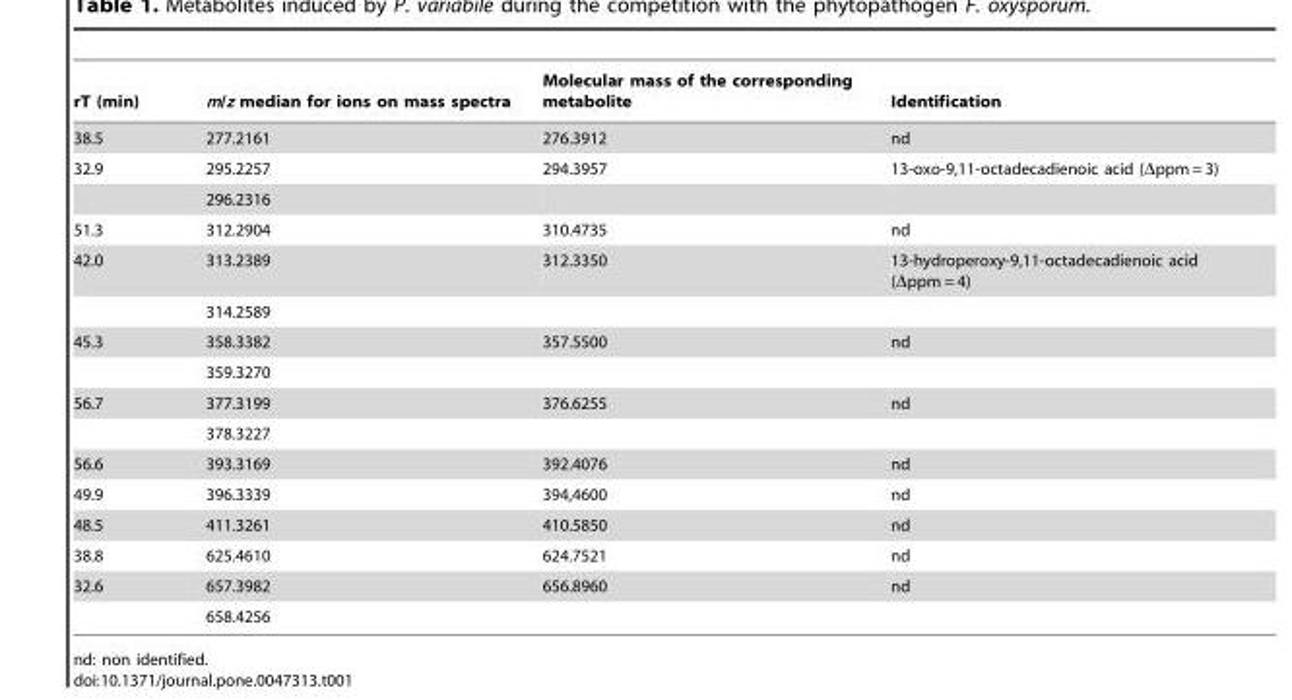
<table><thead><tr><td>rT (min)</td><td>m/z median for ions on mass spectra</td><td>Molecular mass of the corresponding metabolite</td><td>Identification</td></tr></thead><tbody><tr><td>38.5</td><td>277.2161</td><td>276.3912</td><td>nd</td></tr><tr><td rowspan="2">32.9</td><td>295.2257</td><td>294.3957</td><td>13-oxo-9,11-octadecadienoic acid (Δppm = 3)</td></tr><tr><td>296.2316</td><td></td><td></td></tr><tr><td>51.3</td><td>312.2904</td><td>310.4735</td><td>nd</td></tr><tr><td rowspan="2">42.0</td><td>313.2389</td><td>312.3350</td><td>13-hydroperoxy-9,11-octadecadienoic acid (Δppm = 4)</td></tr><tr><td>314.2589</td><td></td><td></td></tr><tr><td rowspan="2">45.3</td><td>358.3382</td><td>357.5500</td><td>nd</td></tr><tr><td>359.3270</td><td></td><td></td></tr><tr><td rowspan="2">56.7</td><td>377.3199</td><td>376.6255</td><td>nd</td></tr><tr><td>378.3227</td><td></td><td></td></tr><tr><td>56.6</td><td>393.3169</td><td>392.4076</td><td>nd</td></tr><tr><td>49.9</td><td>396.3339</td><td>394,4600</td><td>nd</td></tr><tr><td>48.5</td><td>411.3261</td><td>410.5850</td><td>nd</td></tr><tr><td>38.8</td><td>625.4610</td><td>624.7521</td><td>nd</td></tr><tr><td rowspan="2">32.6</td><td>657.3982</td><td>656.8960</td><td>nd</td></tr><tr><td>658.4256</td><td></td><td></td></tr></tbody></table>